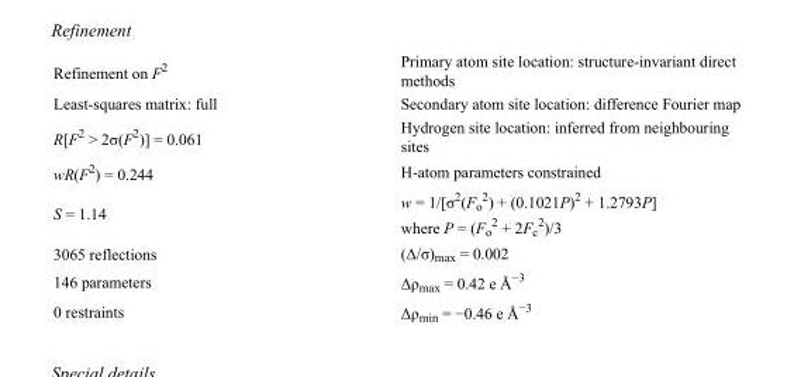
<table><tbody><tr><td>Refinement on F<sup>2</sup></td><td>Primary atom site location: structure-invariant direct methods</td></tr><tr><td>Least-squares matrix: full</td><td>Secondary atom site location: difference Fourier map</td></tr><tr><td>R[F<sup>2</sup> &gt; 2σ(F<sup>2</sup>)] = 0.061</td><td>Hydrogen site location: inferred from neighbouring sites</td></tr><tr><td>wR(F<sup>2</sup>) = 0.244</td><td>H-atom parameters constrained</td></tr><tr><td>S = 1.14</td><td>w = 1/[σ<sup>2</sup>(F<sub>o</sub> <sup>2</sup>) + (0.1021P)<sup>2</sup> + 1.2793P] where P = (F<sub>o</sub> <sup>2</sup> + 2F<sub>c</sub> <sup>2</sup>)/3</td></tr><tr><td>3065 reflections</td><td>(Δ/σ)<sub>max</sub> = 0.002</td></tr><tr><td>146 parameters</td><td>Δρ<sub>max</sub> = 0.42 e Å<sup>−3</sup></td></tr><tr><td>0 restraints</td><td>Δρ<sub>min</sub> = −0.46 e Å<sup>−3</sup></td></tr></tbody></table>